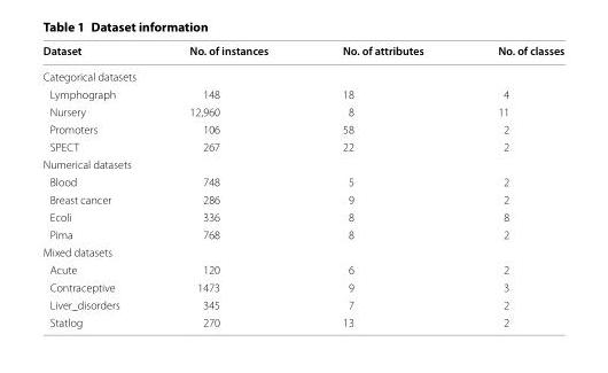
<table><thead><tr><td>Dataset</td><td>No. of instances</td><td>No. of attributes</td><td>No. of classes</td></tr></thead><tbody><tr><td colspan="4">Categorical datasets</td></tr><tr><td>Lymphograph</td><td>148</td><td>18</td><td>4</td></tr><tr><td>Nursery</td><td>12,960</td><td>8</td><td>11</td></tr><tr><td>Promoters</td><td>106</td><td>58</td><td>2</td></tr><tr><td>SPECT</td><td>267</td><td>22</td><td>2</td></tr><tr><td colspan="4">Numerical datasets</td></tr><tr><td>Blood</td><td>748</td><td>5</td><td>2</td></tr><tr><td>Breast cancer</td><td>286</td><td>9</td><td>2</td></tr><tr><td>Ecoli</td><td>336</td><td>8</td><td>8</td></tr><tr><td>Pima</td><td>768</td><td>8</td><td>2</td></tr><tr><td colspan="4">Mixed datasets</td></tr><tr><td>Acute</td><td>120</td><td>6</td><td>2</td></tr><tr><td>Contraceptive</td><td>1473</td><td>9</td><td>3</td></tr><tr><td>Liver_disorders</td><td>345</td><td>7</td><td>2</td></tr><tr><td>Statlog</td><td>270</td><td>13</td><td>2</td></tr></tbody></table>